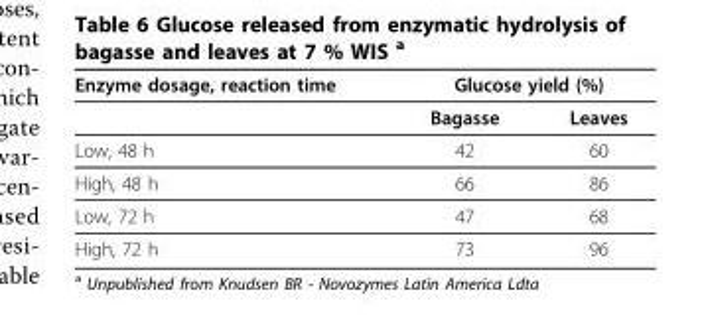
<table><thead><tr><td rowspan="2">Enzyme dosage, reaction time</td><td colspan="2">Glucose yield (%)</td></tr><tr><td>Bagasse</td><td>Leaves</td></tr></thead><tbody><tr><td>Low, 48 h</td><td>42</td><td>60</td></tr><tr><td>High, 48 h</td><td>66</td><td>86</td></tr><tr><td>Low, 72 h</td><td>47</td><td>68</td></tr><tr><td>High, 72 h</td><td>73</td><td>96</td></tr></tbody></table>